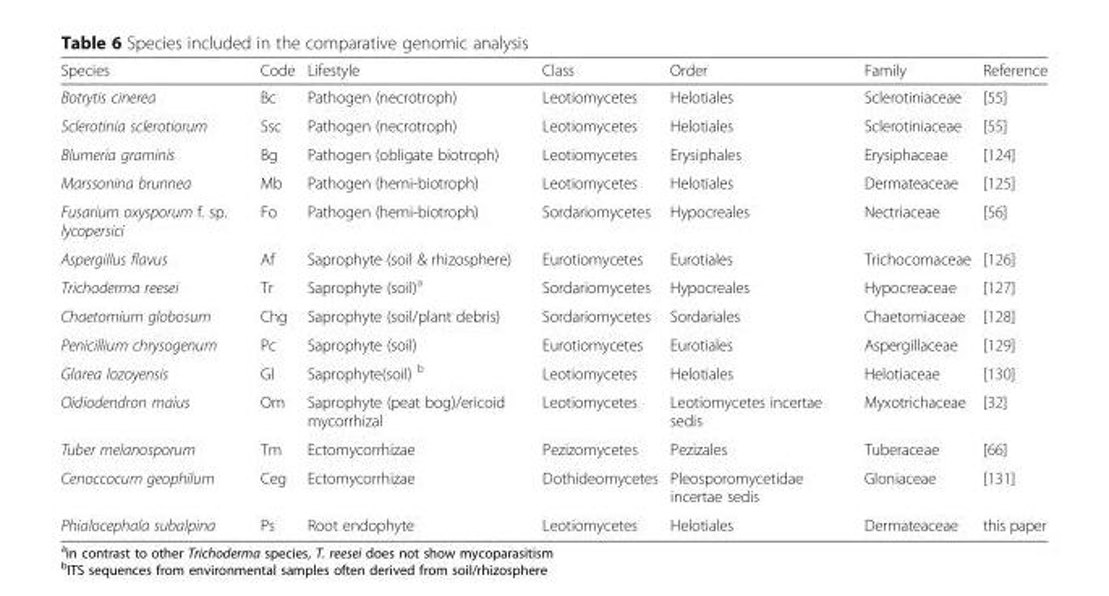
<table><thead><tr><td>Species</td><td>Code</td><td>Lifestyle</td><td>Class</td><td>Order</td><td>Family</td><td>Reference</td></tr></thead><tbody><tr><td>Botrytis cinerea</td><td>Bc</td><td>Pathogen (necrotroph)</td><td>Leotiomycetes</td><td>Helotiales</td><td>Sclerotiniaceae</td><td>[55]</td></tr><tr><td>Sclerotinia sclerotiorum</td><td>Ssc</td><td>Pathogen (necrotroph)</td><td>Leotiomycetes</td><td>Helotiales</td><td>Sclerotiniaceae</td><td>[55]</td></tr><tr><td>Blumeria graminis</td><td>Bg</td><td>Pathogen (obligate biotroph)</td><td>Leotiomycetes</td><td>Erysiphales</td><td>Erysiphaceae</td><td>[124]</td></tr><tr><td>Marssonina brunnea</td><td>Mb</td><td>Pathogen (hemi-biotroph)</td><td>Leotiomycetes</td><td>Helotiales</td><td>Dermateaceae</td><td>[125]</td></tr><tr><td>Fusarium oxysporum f. sp. lycopersici</td><td>Fo</td><td>Pathogen (hemi-biotroph)</td><td>Sordariomycetes</td><td>Hypocreales</td><td>Nectriaceae</td><td>[56]</td></tr><tr><td>Aspergillus flavus</td><td>Af</td><td>Saprophyte (soil &amp; rhizosphere)</td><td>Eurotiomycetes</td><td>Eurotiales</td><td>Trichocomaceae</td><td>[126]</td></tr><tr><td>Trichoderma reesei</td><td>Tr</td><td>Saprophyte (soil)<sup>a</sup></td><td>Sordariomycetes</td><td>Hypocreales</td><td>Hypocreaceae</td><td>[127]</td></tr><tr><td>Chaetomium globosum</td><td>Chg</td><td>Saprophyte (soil/plant debris)</td><td>Sordariomycetes</td><td>Sordariales</td><td>Chaetomiaceae</td><td>[128]</td></tr><tr><td>Penicillium chrysogenum</td><td>Pc</td><td>Saprophyte (soil)</td><td>Eurotiomycetes</td><td>Eurotiales</td><td>Aspergillaceae</td><td>[129]</td></tr><tr><td>Glarea lozoyensis</td><td>Gl</td><td>Saprophyte(soil) <sup>b</sup></td><td>Leotiomycetes</td><td>Helotiales</td><td>Helotiaceae</td><td>[130]</td></tr><tr><td>Oidiodendron maius</td><td>Om</td><td>Saprophyte (peat bog)/ericoid mycorrhizal</td><td>Leotiomycetes</td><td>Leotiomycetes incertae sedis</td><td>Myxotrichaceae</td><td>[32]</td></tr><tr><td>Tuber melanosporum</td><td>Tm</td><td>Ectomycorrhizae</td><td>Pezizomycetes</td><td>Pezizales</td><td>Tuberaceae</td><td>[66]</td></tr><tr><td>Cenoccocum geophilum</td><td>Ceg</td><td>Ectomycorrhizae</td><td>Dothideomycetes</td><td>Pleosporomycetidae incertae sedis</td><td>Gloniaceae</td><td>[131]</td></tr><tr><td>Phialocephala subalpina</td><td>Ps</td><td>Root endophyte</td><td>Leotiomycetes</td><td>Helotiales</td><td>Dermateaceae</td><td>this paper</td></tr></tbody></table>